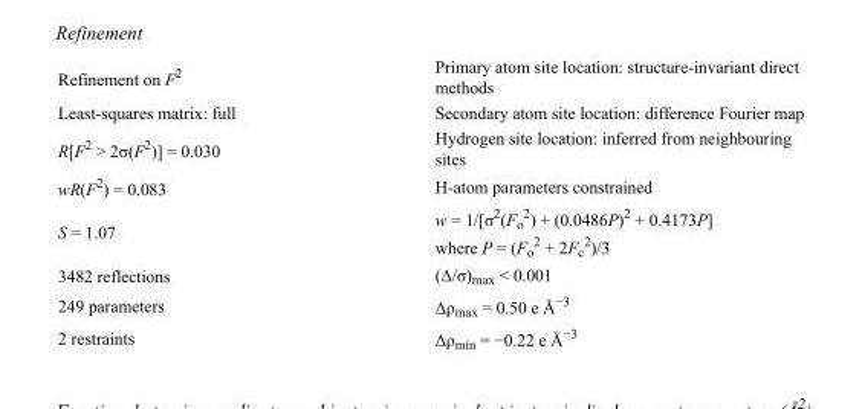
<table><tbody><tr><td>Refinement on F<sup>2</sup></td><td>Primary atom site location: structure-invariant direct methods</td></tr><tr><td>Least-squares matrix: full</td><td>Secondary atom site location: difference Fourier map</td></tr><tr><td>R[F<sup>2</sup> &gt; 2σ(F<sup>2</sup>)] = 0.030</td><td>Hydrogen site location: inferred from neighbouring sites</td></tr><tr><td>wR(F<sup>2</sup>) = 0.083</td><td>H-atom parameters constrained</td></tr><tr><td>S = 1.07</td><td>w = 1/[σ<sup>2</sup>(F<sub>o</sub> <sup>2</sup>) + (0.0486P)<sup>2</sup> + 0.4173P] where P = (F<sub>o</sub> <sup>2</sup> + 2F<sub>c</sub> <sup>2</sup>)/3</td></tr><tr><td>3482 reflections</td><td>(Δ/σ)<sub>max</sub> &lt; 0.001</td></tr><tr><td>249 parameters</td><td>Δρ<sub>max</sub> = 0.50 e Å<sup>−3</sup></td></tr><tr><td>2 restraints</td><td>Δρ<sub>min</sub> = −0.22 e Å<sup>−3</sup></td></tr></tbody></table>